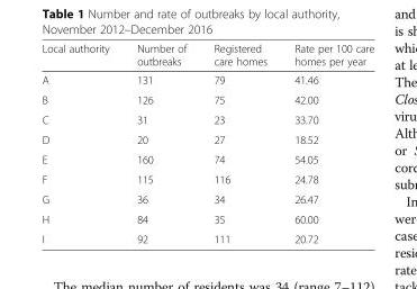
<table><thead><tr><td>Local authority</td><td>Number of outbreaks</td><td>Registered care homes</td><td>Rate per 100 care homes per year</td></tr></thead><tbody><tr><td>A</td><td>131</td><td>79</td><td>41.46</td></tr><tr><td>B</td><td>126</td><td>75</td><td>42.00</td></tr><tr><td>C</td><td>31</td><td>23</td><td>33.70</td></tr><tr><td>D</td><td>20</td><td>27</td><td>18.52</td></tr><tr><td>E</td><td>160</td><td>74</td><td>54.05</td></tr><tr><td>F</td><td>115</td><td>116</td><td>24.78</td></tr><tr><td>G</td><td>36</td><td>34</td><td>26.47</td></tr><tr><td>H</td><td>84</td><td>35</td><td>60.00</td></tr><tr><td>I</td><td>92</td><td>111</td><td>20.72</td></tr></tbody></table>